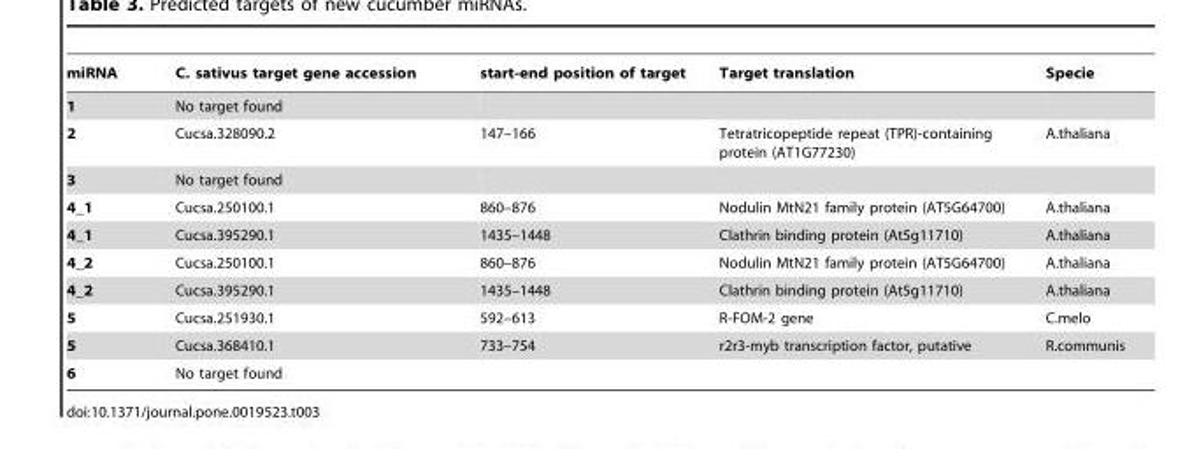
<table><thead><tr><td>miRNA</td><td>C. sativus target gene accession</td><td>start-end position of target</td><td>Target translation</td><td>Specie</td></tr></thead><tbody><tr><td>1</td><td>No target found</td><td></td><td></td><td></td></tr><tr><td>2</td><td>Cucsa.328090.2</td><td>147–166</td><td>Tetratricopeptide repeat (TPR)-containing protein (AT1G77230)</td><td>A.thaliana</td></tr><tr><td>3</td><td>No target found</td><td></td><td></td><td></td></tr><tr><td>4_1</td><td>Cucsa.250100.1</td><td>860–876</td><td>Nodulin MtN21 family protein (AT5G64700)</td><td>A.thaliana</td></tr><tr><td>4_1</td><td>Cucsa.395290.1</td><td>1435–1448</td><td>Clathrin binding protein (At5g11710)</td><td>A.thaliana</td></tr><tr><td>4_2</td><td>Cucsa.250100.1</td><td>860–876</td><td>Nodulin MtN21 family protein (AT5G64700)</td><td>A.thaliana</td></tr><tr><td>4_2</td><td>Cucsa.395290.1</td><td>1435–1448</td><td>Clathrin binding protein (At5g11710)</td><td>A.thaliana</td></tr><tr><td>5</td><td>Cucsa.251930.1</td><td>592–613</td><td>R-FOM-2 gene</td><td>C.melo</td></tr><tr><td>5</td><td>Cucsa.368410.1</td><td>733–754</td><td>r2r3-myb transcription factor, putative</td><td>R.communis</td></tr><tr><td>6</td><td>No target found</td><td></td><td></td><td></td></tr></tbody></table>